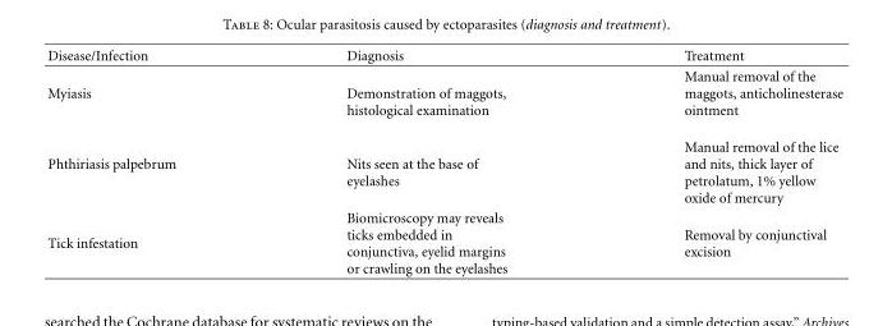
<table><thead><tr><td>Disease/Infection</td><td>Diagnosis</td><td>Treatment</td></tr></thead><tbody><tr><td>Myiasis</td><td>Demonstration of maggots, histological examination</td><td>Manual removal of the maggots, anticholinesterase ointment</td></tr><tr><td>Phthiriasis palpebrum</td><td>Nits seen at the base of eyelashes</td><td>Manual removal of the lice and nits, thick layer of petrolatum, 1% yellow oxide of mercury</td></tr><tr><td>Tick infestation</td><td>Biomicroscopy may reveals ticks embedded in conjunctiva, eyelid margins or crawling on the eyelashes</td><td>Removal by conjunctival excision</td></tr></tbody></table>